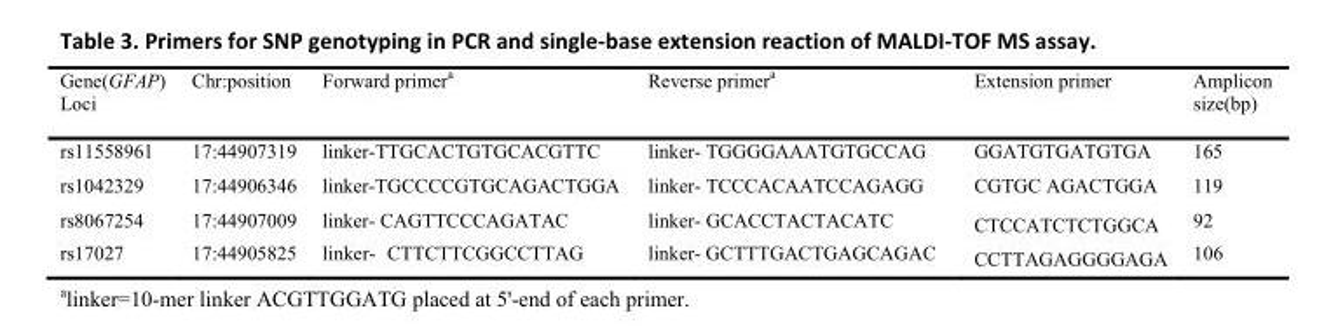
<table><tbody><tr><td>Gene(GFAP) Loci</td><td>Chr:position</td><td>Forward primer<sup>a</sup></td><td>Reverse primer<sup>a</sup></td><td>Extension primer</td><td>Amplicon size(bp)</td></tr><tr><td>rs11558961</td><td>17:44907319</td><td>linker-TTGCACTGTGCACGTTC</td><td>linker- TGGGGAAATGTGCCAG</td><td>GGATGTGATGTGA</td><td>165</td></tr><tr><td>rs1042329</td><td>17:44906346</td><td>linker-TGCCCCGTGCAGACTGGA</td><td>linker- TCCCACAATCCAGAGG</td><td>CGTGC AGACTGGA</td><td>119</td></tr><tr><td>rs8067254</td><td>17:44907009</td><td>linker- CAGTTCCCAGATAC</td><td>linker- GCACCTACTACATC</td><td>CTCCATCTCTGGCA</td><td>92</td></tr><tr><td>rs17027</td><td>17:44905825</td><td>linker- CTTCTTCGGCCTTAG</td><td>linker- GCTTTGACTGAGCAGAC</td><td>CCTTAGAGGGGAGA</td><td>106</td></tr></tbody></table>